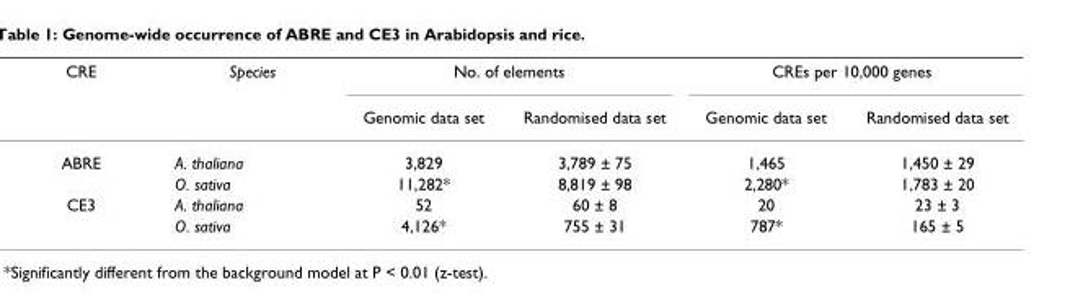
<table><thead><tr><td rowspan="2">CRE</td><td rowspan="2">Species</td><td colspan="2">No. of elements</td><td colspan="2">CREs per 10,000 genes</td></tr><tr><td>Genomic data set</td><td>Randomised data set</td><td>Genomic data set</td><td>Randomised data set</td></tr></thead><tbody><tr><td rowspan="2">ABRE</td><td>A. thaliana</td><td>3,829</td><td>3,789 ± 75</td><td>1,465</td><td>1,450 ± 29</td></tr><tr><td>O. sativa</td><td>11,282*</td><td>8,819 ± 98</td><td>2,280*</td><td>1,783 ± 20</td></tr><tr><td rowspan="2">CE3</td><td>A. thaliana</td><td>52</td><td>60 ± 8</td><td>20</td><td>23 ± 3</td></tr><tr><td>O. sativa</td><td>4,126*</td><td>755 ± 31</td><td>787*</td><td>165 ± 5</td></tr></tbody></table>